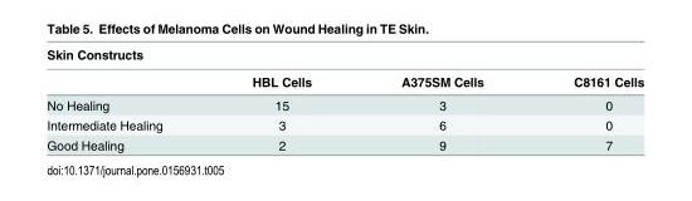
<table><thead><tr><td colspan="4">Skin Constructs</td></tr><tr><td></td><td>HBL Cells</td><td>A375SM Cells</td><td>C8161 Cells</td></tr></thead><tbody><tr><td>No Healing</td><td>15</td><td>3</td><td>0</td></tr><tr><td>Intermediate Healing</td><td>3</td><td>6</td><td>0</td></tr><tr><td>Good Healing</td><td>2</td><td>9</td><td>7</td></tr></tbody></table>